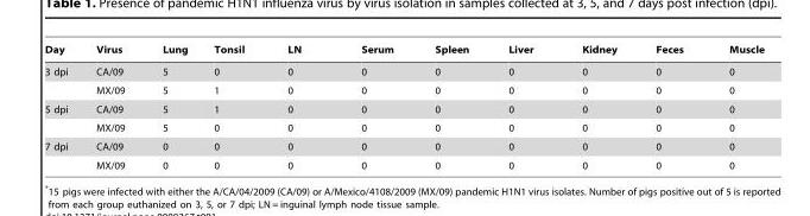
<table><thead><tr><td>Day</td><td>Virus</td><td>Lung</td><td>Tonsil</td><td>LN</td><td>Serum</td><td>Spleen</td><td>Liver</td><td>Kidney</td><td>Feces</td><td>Muscle</td></tr></thead><tbody><tr><td rowspan="2">3 dpi</td><td>CA/09</td><td>5</td><td>0</td><td>0</td><td>0</td><td>0</td><td>0</td><td>0</td><td>0</td><td>0</td></tr><tr><td>MX/09</td><td>5</td><td>1</td><td>0</td><td>0</td><td>0</td><td>0</td><td>0</td><td>0</td><td>0</td></tr><tr><td rowspan="2">5 dpi</td><td>CA/09</td><td>5</td><td>1</td><td>0</td><td>0</td><td>0</td><td>0</td><td>0</td><td>0</td><td>0</td></tr><tr><td>MX/09</td><td>5</td><td>0</td><td>0</td><td>0</td><td>0</td><td>0</td><td>0</td><td>0</td><td>0</td></tr><tr><td rowspan="2">7 dpi</td><td>CA/09</td><td>0</td><td>0</td><td>0</td><td>0</td><td>0</td><td>0</td><td>0</td><td>0</td><td>0</td></tr><tr><td>MX/09</td><td>0</td><td>0</td><td>0</td><td>0</td><td>0</td><td>0</td><td>0</td><td>0</td><td>0</td></tr></tbody></table>